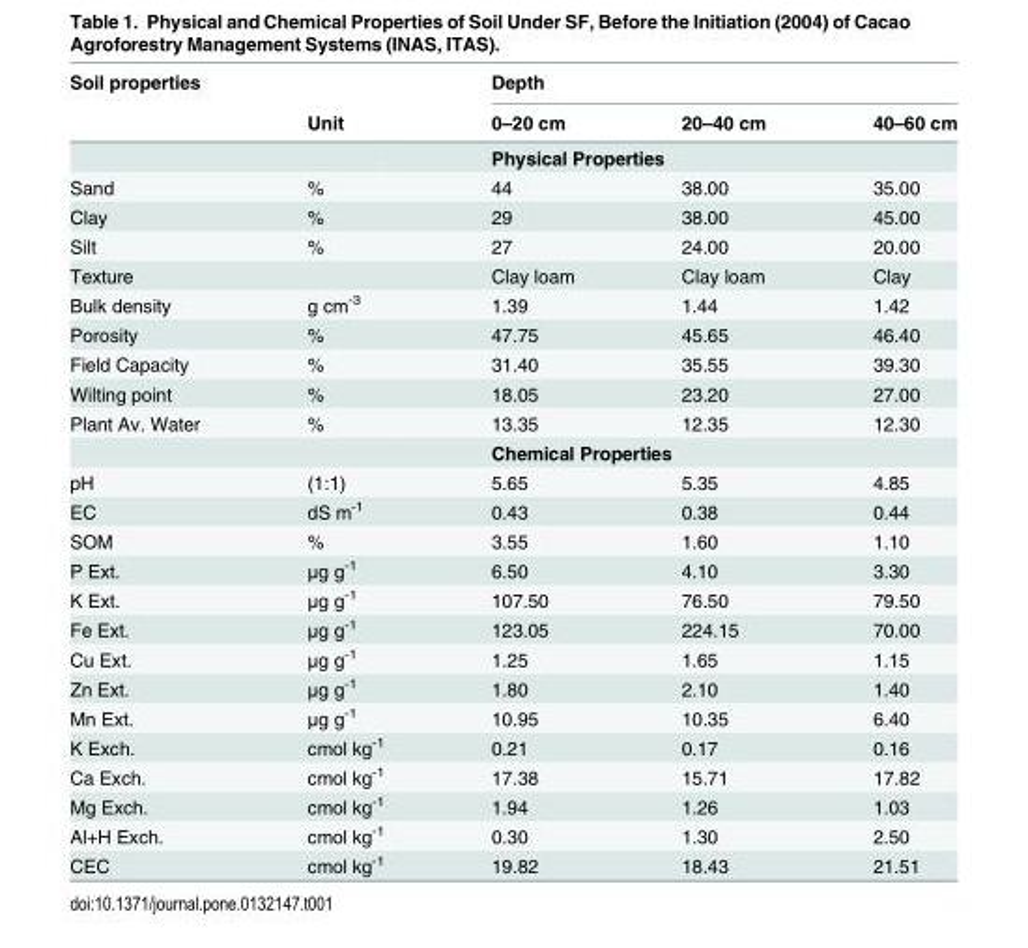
<table><thead><tr><td rowspan="2">Soil properties</td><td rowspan="2">Unit</td><td colspan="3">Depth</td></tr><tr><td>0–20 cm</td><td>20–40 cm</td><td>40–60 cm</td></tr></thead><tbody><tr><td></td><td></td><td colspan="3">Physical Properties</td></tr><tr><td>Sand</td><td>%</td><td>44</td><td>38.00</td><td>35.00</td></tr><tr><td>Clay</td><td>%</td><td>29</td><td>38.00</td><td>45.00</td></tr><tr><td>Silt</td><td>%</td><td>27</td><td>24.00</td><td>20.00</td></tr><tr><td>Texture</td><td></td><td>Clay loam</td><td>Clay loam</td><td>Clay</td></tr><tr><td>Bulk density</td><td>g cm<sup>-3</sup></td><td>1.39</td><td>1.44</td><td>1.42</td></tr><tr><td>Porosity</td><td>%</td><td>47.75</td><td>45.65</td><td>46.40</td></tr><tr><td>Field Capacity</td><td>%</td><td>31.40</td><td>35.55</td><td>39.30</td></tr><tr><td>Wilting point</td><td>%</td><td>18.05</td><td>23.20</td><td>27.00</td></tr><tr><td rowspan="2">Plant Av. Water</td><td>%</td><td>13.35</td><td>12.35</td><td>12.30</td></tr><tr><td></td><td colspan="3">Chemical Properties</td></tr><tr><td>pH</td><td>(1:1)</td><td>5.65</td><td>5.35</td><td>4.85</td></tr><tr><td>EC</td><td>dS m<sup>-1</sup></td><td>0.43</td><td>0.38</td><td>0.44</td></tr><tr><td>SOM</td><td>%</td><td>3.55</td><td>1.60</td><td>1.10</td></tr><tr><td>P Ext.</td><td>μg g<sup>-1</sup></td><td>6.50</td><td>4.10</td><td>3.30</td></tr><tr><td>K Ext.</td><td>μg g<sup>-1</sup></td><td>107.50</td><td>76.50</td><td>79.50</td></tr><tr><td>Fe Ext.</td><td>μg g<sup>-1</sup></td><td>123.05</td><td>224.15</td><td>70.00</td></tr><tr><td>Cu Ext.</td><td>μg g<sup>-1</sup></td><td>1.25</td><td>1.65</td><td>1.15</td></tr><tr><td>Zn Ext.</td><td>μg g<sup>-1</sup></td><td>1.80</td><td>2.10</td><td>1.40</td></tr><tr><td>Mn Ext.</td><td>μg g<sup>-1</sup></td><td>10.95</td><td>10.35</td><td>6.40</td></tr><tr><td>K Exch.</td><td>cmol kg<sup>-1</sup></td><td>0.21</td><td>0.17</td><td>0.16</td></tr><tr><td>Ca Exch.</td><td>cmol kg<sup>-1</sup></td><td>17.38</td><td>15.71</td><td>17.82</td></tr><tr><td>Mg Exch.</td><td>cmol kg<sup>-1</sup></td><td>1.94</td><td>1.26</td><td>1.03</td></tr><tr><td>Al+H Exch.</td><td>cmol kg<sup>-1</sup></td><td>0.30</td><td>1.30</td><td>2.50</td></tr><tr><td>CEC</td><td>cmol kg<sup>-1</sup></td><td>19.82</td><td>18.43</td><td>21.51</td></tr></tbody></table>